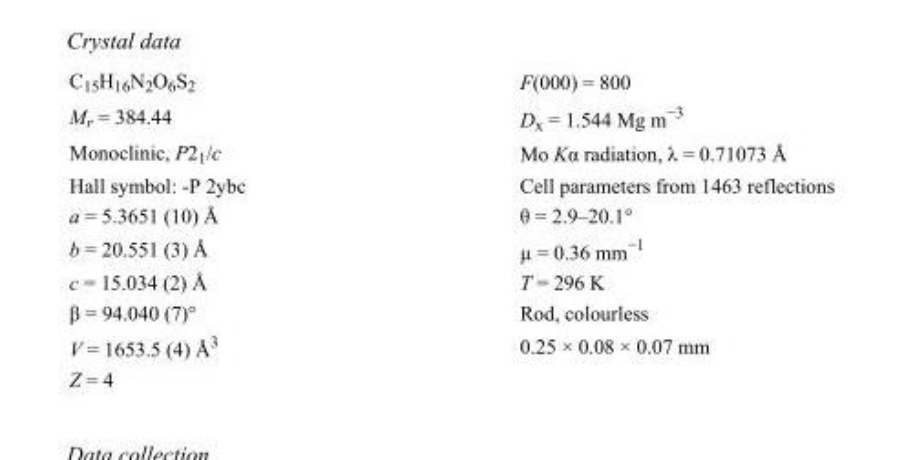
<table><tbody><tr><td>C<sub>15</sub>H<sub>16</sub>N<sub>2</sub>O<sub>6</sub>S<sub>2</sub></td><td>F(000) = 800</td></tr><tr><td>M<sub>r</sub> = 384.44</td><td>D<sub>x</sub> = 1.544 Mg m<sup>−3</sup></td></tr><tr><td>Monoclinic, P2<sub>1</sub>/c</td><td>Mo Kα radiation, λ = 0.71073 Å</td></tr><tr><td>Hall symbol: -P 2ybc</td><td>Cell parameters from 1463 reflections</td></tr><tr><td>a = 5.3651 (10) Å</td><td>θ = 2.9–20.1°</td></tr><tr><td>b = 20.551 (3) Å</td><td>µ = 0.36 mm<sup>−1</sup></td></tr><tr><td>c = 15.034 (2) Å</td><td>T = 296 K</td></tr><tr><td>β = 94.040 (7)°</td><td>Rod, colourless</td></tr><tr><td>V = 1653.5 (4) Å<sup>3</sup></td><td>0.25 × 0.08 × 0.07 mm</td></tr><tr><td>Z = 4</td><td></td></tr></tbody></table>